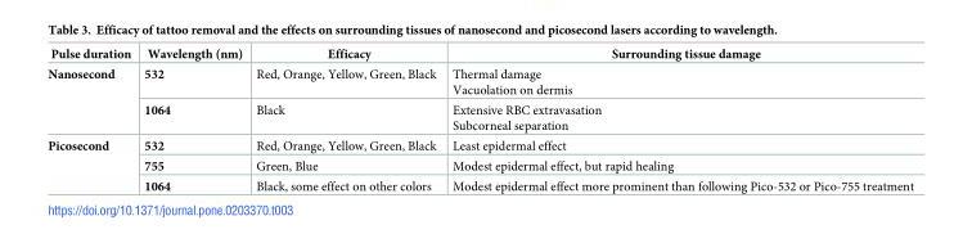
<table><thead><tr><td>Pulse duration</td><td>Wavelength (nm)</td><td>Efficacy</td><td>Surrounding tissue damage</td></tr></thead><tbody><tr><td rowspan="2">Nanosecond</td><td>532</td><td>Red, Orange, Yellow, Green, Black</td><td>Thermal damage Vacuolation on dermis</td></tr><tr><td>1064</td><td>Black</td><td>Extensive RBC extravasation Subcorneal separation</td></tr><tr><td rowspan="3">Picosecond</td><td>532</td><td>Red, Orange, Yellow, Green, Black</td><td>Least epidermal effect</td></tr><tr><td>755</td><td>Green, Blue</td><td>Modest epidermal effect, but rapid healing</td></tr><tr><td>1064</td><td>Black, some effect on other colors</td><td>Modest epidermal effect more prominent than following Pico-532 or Pico-755 treatment</td></tr></tbody></table>